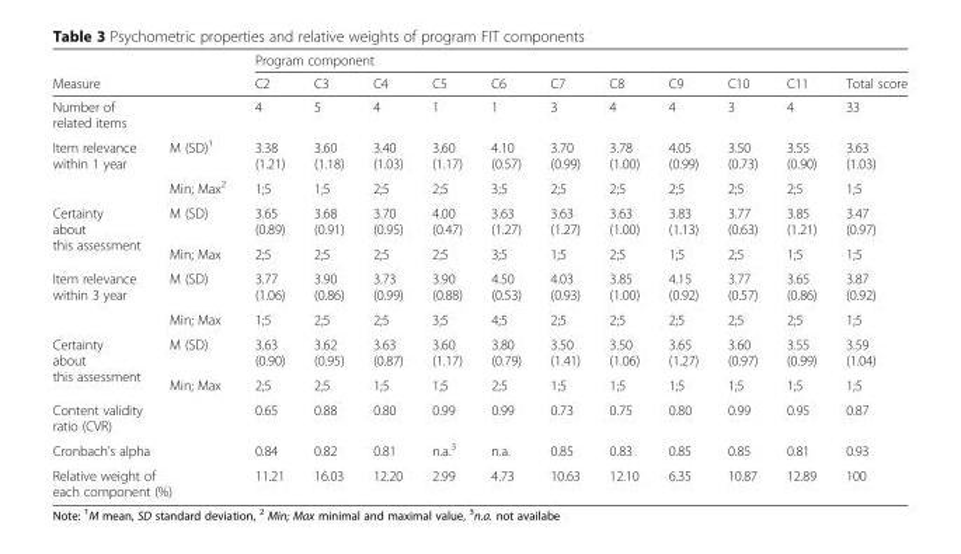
<table><thead><tr><td></td><td></td><td colspan="11">Program component</td></tr><tr><td colspan="2">Measure</td><td>C2</td><td>C3</td><td>C4</td><td>C5</td><td>C6</td><td>C7</td><td>C8</td><td>C9</td><td>C10</td><td>C11</td><td>Total score</td></tr></thead><tbody><tr><td colspan="2">Number of related items</td><td>4</td><td>5</td><td>4</td><td>1</td><td>1</td><td>3</td><td>4</td><td>4</td><td>3</td><td>4</td><td>33</td></tr><tr><td rowspan="2">Item relevance within 1 year</td><td>M (SD)<sup>1</sup></td><td>3.38 (1.21)</td><td>3.60 (1.18)</td><td>3.40 (1.03)</td><td>3.60 (1.17)</td><td>4.10 (0.57)</td><td>3.70 (0.99)</td><td>3.78 (1.00)</td><td>4.05 (0.99)</td><td>3.50 (0.73)</td><td>3.55 (0.90)</td><td>3.63 (1.03)</td></tr><tr><td>Min; Max<sup>2</sup></td><td>1;5</td><td>1;5</td><td>2;5</td><td>2;5</td><td>3;5</td><td>2;5</td><td>2;5</td><td>2;5</td><td>2;5</td><td>2;5</td><td>1;5</td></tr><tr><td rowspan="2">Certainty about this assessment</td><td>M (SD)</td><td>3.65 (0.89)</td><td>3.68 (0.91)</td><td>3.70 (0.95)</td><td>4.00 (0.47)</td><td>3.63 (1.27)</td><td>3.63 (1.27)</td><td>3.63 (1.00)</td><td>3.83 (1.13)</td><td>3.77 (0.63)</td><td>3.85 (1.21)</td><td>3.47 (0.97)</td></tr><tr><td>Min; Max</td><td>2;5</td><td>2;5</td><td>2;5</td><td>2;5</td><td>3;5</td><td>1;5</td><td>2;5</td><td>1;5</td><td>2;5</td><td>1;5</td><td>1;5</td></tr><tr><td rowspan="2">Item relevance within 3 year</td><td>M (SD)</td><td>3.77 (1.06)</td><td>3.90 (0.86)</td><td>3.73 (0.99)</td><td>3.90 (0.88)</td><td>4.50 (0.53)</td><td>4.03 (0.93)</td><td>3.85 (1.00)</td><td>4.15 (0.92)</td><td>3.77 (0.57)</td><td>3.65 (0.86)</td><td>3.87 (0.92)</td></tr><tr><td>Min; Max</td><td>1;5</td><td>2;5</td><td>2;5</td><td>3;5</td><td>4;5</td><td>2;5</td><td>2;5</td><td>2;5</td><td>2;5</td><td>2;5</td><td>1;5</td></tr><tr><td rowspan="2">Certainty about this assessment</td><td>M (SD)</td><td>3.63 (0.90)</td><td>3.62 (0.95)</td><td>3.63 (0.87)</td><td>3.60 (1.17)</td><td>3.80 (0.79)</td><td>3.50 (1.41)</td><td>3.50 (1.06)</td><td>3.65 (1.27)</td><td>3.60 (0.97)</td><td>3.55 (0.99)</td><td>3.59 (1.04)</td></tr><tr><td>Min; Max</td><td>2;5</td><td>2;5</td><td>1;5</td><td>1;5</td><td>2;5</td><td>1;5</td><td>1;5</td><td>1;5</td><td>1;5</td><td>1;5</td><td>1;5</td></tr><tr><td colspan="2">Content validity ratio (CVR)</td><td>0.65</td><td>0.88</td><td>0.80</td><td>0.99</td><td>0.99</td><td>0.73</td><td>0.75</td><td>0.80</td><td>0.99</td><td>0.95</td><td>0.87</td></tr><tr><td colspan="2">Cronbach’s alpha</td><td>0.84</td><td>0.82</td><td>0.81</td><td>n.a.<sup>3</sup></td><td>n.a.</td><td>0.85</td><td>0.83</td><td>0.85</td><td>0.85</td><td>0.81</td><td>0.93</td></tr><tr><td colspan="2">Relative weight of each component (%)</td><td>11.21</td><td>16.03</td><td>12.20</td><td>2.99</td><td>4.73</td><td>10.63</td><td>12.10</td><td>6.35</td><td>10.87</td><td>12.89</td><td>100</td></tr></tbody></table>